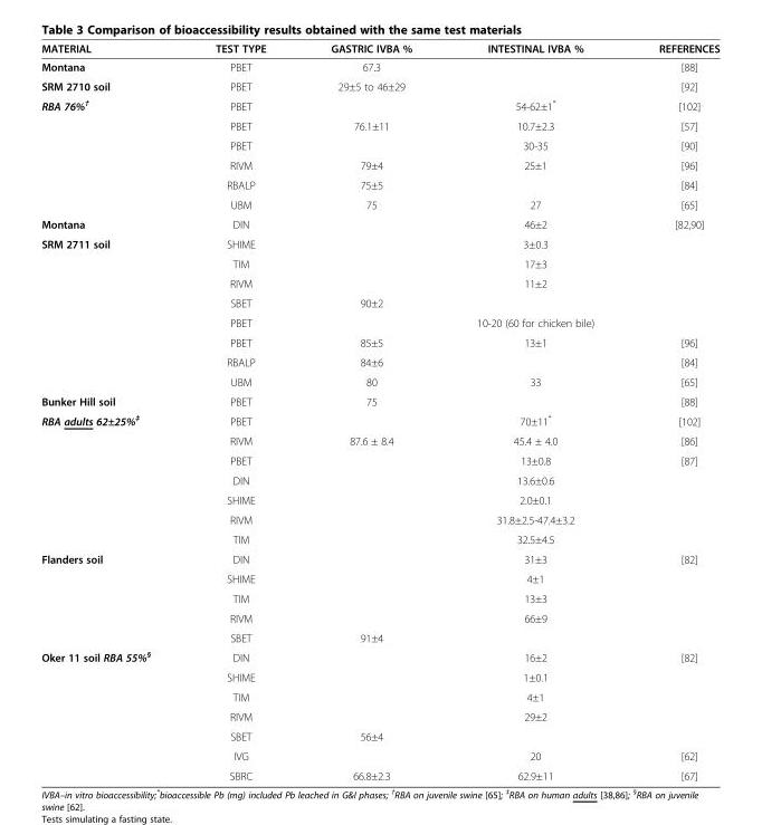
<table><thead><tr><td>MATERIAL</td><td>TEST TYPE</td><td>GASTRIC IVBA %</td><td>INTESTINAL IVBA %</td><td>REFERENCES</td></tr></thead><tbody><tr><td>Montana</td><td>PBET</td><td>67.3</td><td></td><td>[88]</td></tr><tr><td>SRM 2710 soil</td><td>PBET</td><td>29±5 to 46±29</td><td></td><td>[92]</td></tr><tr><td rowspan="6">RBA 76%<sup>†</sup></td><td>PBET</td><td></td><td>54-62±1*</td><td>[102]</td></tr><tr><td>PBET</td><td>76.1±11</td><td>10.7±2.3</td><td>[57]</td></tr><tr><td>PBET</td><td></td><td>30-35</td><td>[90]</td></tr><tr><td>RIVM</td><td>79±4</td><td>25±1</td><td>[96]</td></tr><tr><td>RBALP</td><td>75±5</td><td></td><td>[84]</td></tr><tr><td>UBM</td><td>75</td><td>27</td><td>[65]</td></tr><tr><td>Montana</td><td>DIN</td><td></td><td>46±2</td><td>[82,90]</td></tr><tr><td rowspan="8">SRM 2711 soil</td><td>SHIME</td><td></td><td>3±0.3</td><td></td></tr><tr><td>TIM</td><td></td><td>17±3</td><td></td></tr><tr><td>RIVM</td><td></td><td>11±2</td><td></td></tr><tr><td>SBET</td><td>90±2</td><td></td><td></td></tr><tr><td>PBET</td><td></td><td>10-20 (60 for chicken bile)</td><td></td></tr><tr><td>PBET</td><td>85±5</td><td>13±1</td><td>[96]</td></tr><tr><td>RBALP</td><td>84±6</td><td></td><td>[84]</td></tr><tr><td>UBM</td><td>80</td><td>33</td><td>[65]</td></tr><tr><td>Bunker Hill soil</td><td>PBET</td><td>75</td><td></td><td>[88]</td></tr><tr><td rowspan="7">RBA adults 62±25%<sup>‡</sup></td><td>PBET</td><td></td><td>70±11*</td><td>[102]</td></tr><tr><td>RIVM</td><td>87.6 ± 8.4</td><td>45.4 ± 4.0</td><td>[86]</td></tr><tr><td>PBET</td><td></td><td>13±0.8</td><td>[87]</td></tr><tr><td>DIN</td><td></td><td>13.6±0.6</td><td></td></tr><tr><td>SHIME</td><td></td><td>2.0±0.1</td><td></td></tr><tr><td>RIVM</td><td></td><td>31.8±2.5-47.4±3.2</td><td></td></tr><tr><td>TIM</td><td></td><td>32.5±4.5</td><td></td></tr><tr><td rowspan="5">Flanders soil</td><td>DIN</td><td></td><td>31±3</td><td>[82]</td></tr><tr><td>SHIME</td><td></td><td>4±1</td><td></td></tr><tr><td>TIM</td><td></td><td>13±3</td><td></td></tr><tr><td>RIVM</td><td></td><td>66±9</td><td></td></tr><tr><td>SBET</td><td>91±4</td><td></td><td></td></tr><tr><td rowspan="7">Oker 11 soil RBA 55%<sup>§</sup></td><td>DIN</td><td></td><td>16±2</td><td>[82]</td></tr><tr><td>SHIME</td><td></td><td>1±0.1</td><td></td></tr><tr><td>TIM</td><td></td><td>4±1</td><td></td></tr><tr><td>RIVM</td><td></td><td>29±2</td><td></td></tr><tr><td>SBET</td><td>56±4</td><td></td><td></td></tr><tr><td>IVG</td><td></td><td>20</td><td>[62]</td></tr><tr><td>SBRC</td><td>66.8±2.3</td><td>62.9±11</td><td>[67]</td></tr></tbody></table>